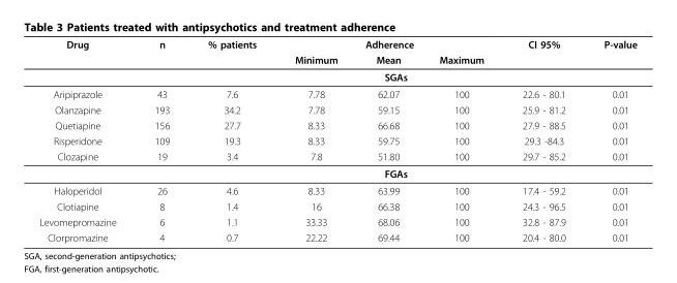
<table><thead><tr><td rowspan="2">Drug</td><td rowspan="2">n</td><td rowspan="2">% patients</td><td colspan="3">Adherence</td><td rowspan="2">CI 95%</td><td rowspan="2">P-value</td></tr><tr><td>Minimum</td><td>Mean</td><td>Maximum</td></tr></thead><tbody><tr><td></td><td colspan="7">SGAs</td></tr><tr><td>Aripiprazole</td><td>43</td><td>7.6</td><td>7.78</td><td>62.07</td><td>100</td><td>22.6 - 80.1</td><td>0.01</td></tr><tr><td>Olanzapine</td><td>193</td><td>34.2</td><td>7.78</td><td>59.15</td><td>100</td><td>25.9 - 81.2</td><td>0.01</td></tr><tr><td>Quetiapine</td><td>156</td><td>27.7</td><td>8.33</td><td>66.68</td><td>100</td><td>27.9 - 88.5</td><td>0.01</td></tr><tr><td>Risperidone</td><td>109</td><td>19.3</td><td>8.33</td><td>59.75</td><td>100</td><td>29.3 -84.3</td><td>0.01</td></tr><tr><td rowspan="2">Clozapine</td><td>19</td><td>3.4</td><td>7.8</td><td>51.80</td><td>100</td><td>29.7 - 85.2</td><td>0.01</td></tr><tr><td colspan="7">FGAs</td></tr><tr><td>Haloperidol</td><td>26</td><td>4.6</td><td>8.33</td><td>63.99</td><td>100</td><td>17.4 - 59.2</td><td>0.01</td></tr><tr><td>Clotiapine</td><td>8</td><td>1.4</td><td>16</td><td>66.38</td><td>100</td><td>24.3 - 96.5</td><td>0.01</td></tr><tr><td>Levomepromazine</td><td>6</td><td>1.1</td><td>33.33</td><td>68.06</td><td>100</td><td>32.8 - 87.9</td><td>0.01</td></tr><tr><td>Clorpromazine</td><td>4</td><td>0.7</td><td>22.22</td><td>69.44</td><td>100</td><td>20.4 - 80.0</td><td>0.01</td></tr></tbody></table>